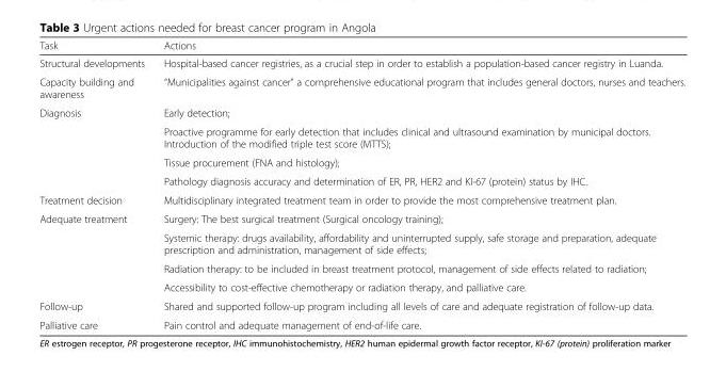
<table><thead><tr><td>Task</td><td>Actions</td></tr></thead><tbody><tr><td>Structural developments</td><td>Hospital-based cancer registries, as a crucial step in order to establish a population-based cancer registry in Luanda.</td></tr><tr><td>Capacity building and awareness</td><td>“Municipalities against cancer” a comprehensive educational program that includes general doctors, nurses and teachers.</td></tr><tr><td rowspan="4">Diagnosis</td><td>Early detection;</td></tr><tr><td>Proactive programme for early detection that includes clinical and ultrasound examination by municipal doctors. Introduction of the modified triple test score (MTTS);</td></tr><tr><td>Tissue procurement (FNA and histology);</td></tr><tr><td>Pathology diagnosis accuracy and determination of ER, PR, HER2 and KI-67 (protein) status by IHC.</td></tr><tr><td>Treatment decision</td><td>Multidisciplinary integrated treatment team in order to provide the most comprehensive treatment plan.</td></tr><tr><td rowspan="4">Adequate treatment</td><td>Surgery: The best surgical treatment (Surgical oncology training);</td></tr><tr><td>Systemic therapy: drugs availability, affordability and uninterrupted supply, safe storage and preparation, adequate prescription and administration, management of side effects;</td></tr><tr><td>Radiation therapy: to be included in breast treatment protocol, management of side effects related to radiation;</td></tr><tr><td>Accessibility to cost-effective chemotherapy or radiation therapy, and palliative care.</td></tr><tr><td>Follow-up</td><td>Shared and supported follow-up program including all levels of care and adequate registration of follow-up data.</td></tr><tr><td>Palliative care</td><td>Pain control and adequate management of end-of-life care.</td></tr></tbody></table>